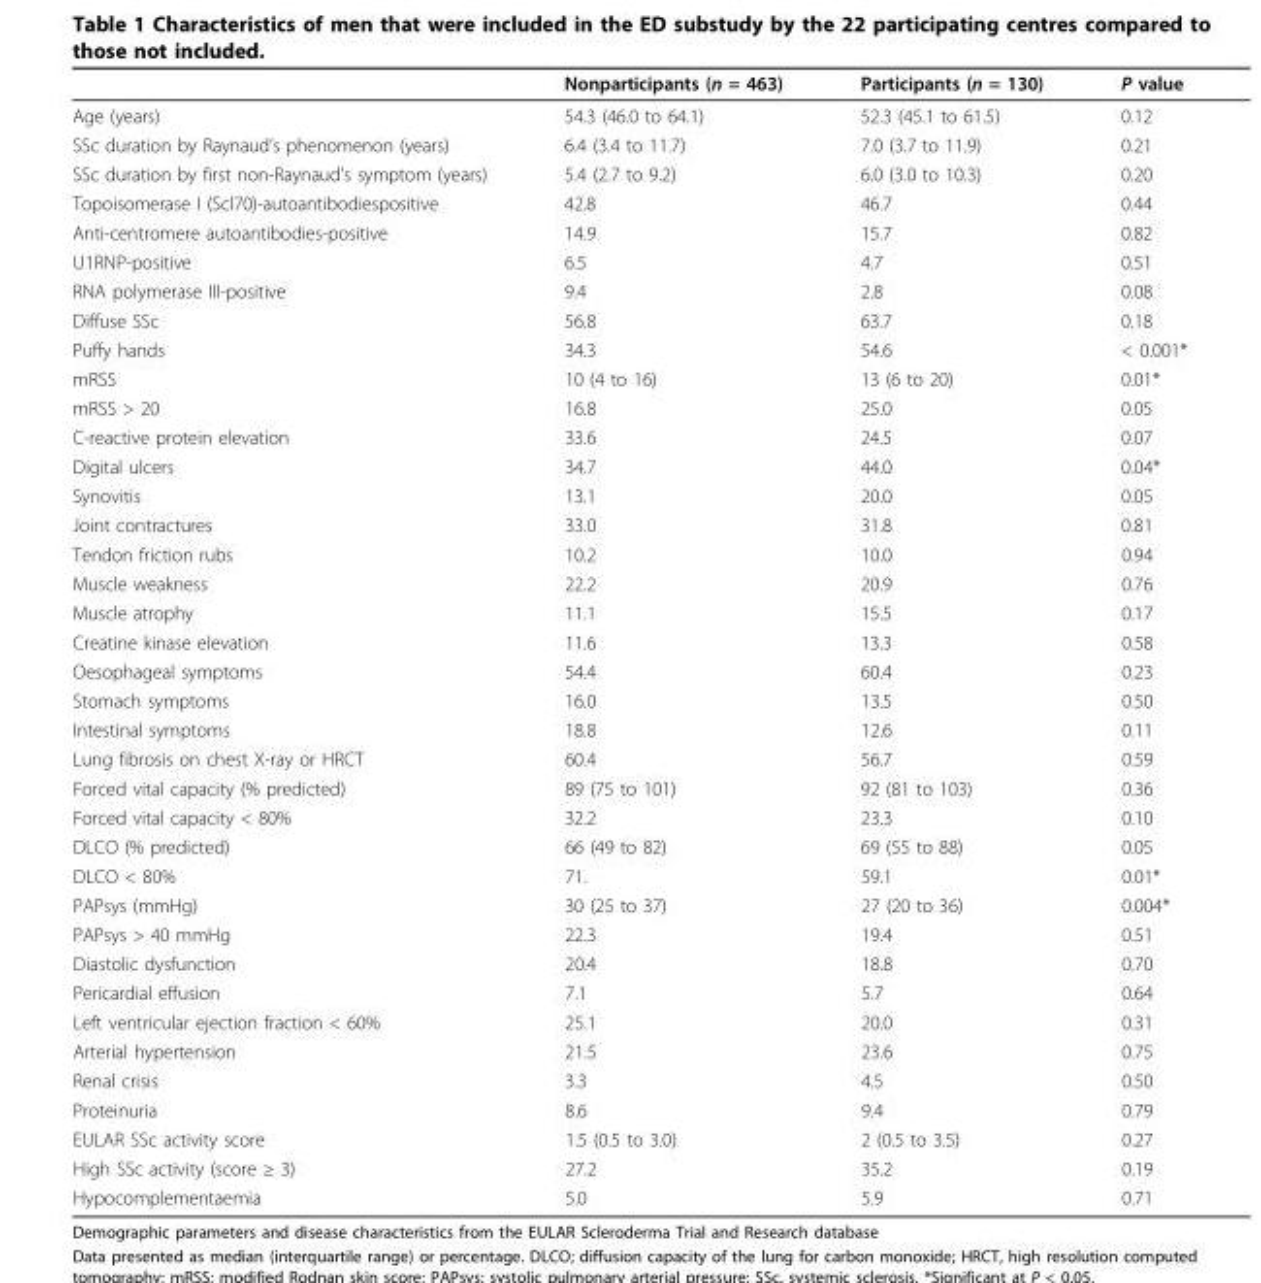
<table><thead><tr><td></td><td>Nonparticipants (n = 463)</td><td>Participants (n = 130)</td><td>P value</td></tr></thead><tbody><tr><td>Age (years)</td><td>54.3 (46.0 to 64.1)</td><td>52.3 (45.1 to 61.5)</td><td>0.12</td></tr><tr><td>SSc duration by Raynaud’s phenomenon (years)</td><td>6.4 (3.4 to 11.7)</td><td>7.0 (3.7 to 11.9)</td><td>0.21</td></tr><tr><td>SSc duration by first non-Raynaud’s symptom (years)</td><td>5.4 (2.7 to 9.2)</td><td>6.0 (3.0 to 10.3)</td><td>0.20</td></tr><tr><td>Topoisomerase I (Scl70)-autoantibodiespositive</td><td>42.8</td><td>46.7</td><td>0.44</td></tr><tr><td>Anti-centromere autoantibodies-positive</td><td>14.9</td><td>15.7</td><td>0.82</td></tr><tr><td>U1RNP-positive</td><td>6.5</td><td>4.7</td><td>0.51</td></tr><tr><td>RNA polymerase III-positive</td><td>9.4</td><td>2.8</td><td>0.08</td></tr><tr><td>Diffuse SSc</td><td>56.8</td><td>63.7</td><td>0.18</td></tr><tr><td>Puffy hands</td><td>34.3</td><td>54.6</td><td>&lt; 0.001*</td></tr><tr><td>mRSS</td><td>10 (4 to 16)</td><td>13 (6 to 20)</td><td>0.01*</td></tr><tr><td>mRSS &gt; 20</td><td>16.8</td><td>25.0</td><td>0.05</td></tr><tr><td>C-reactive protein elevation</td><td>33.6</td><td>24.5</td><td>0.07</td></tr><tr><td>Digital ulcers</td><td>34.7</td><td>44.0</td><td>0.04*</td></tr><tr><td>Synovitis</td><td>13.1</td><td>20.0</td><td>0.05</td></tr><tr><td>Joint contractures</td><td>33.0</td><td>31.8</td><td>0.81</td></tr><tr><td>Tendon friction rubs</td><td>10.2</td><td>10.0</td><td>0.94</td></tr><tr><td>Muscle weakness</td><td>22.2</td><td>20.9</td><td>0.76</td></tr><tr><td>Muscle atrophy</td><td>11.1</td><td>15.5</td><td>0.17</td></tr><tr><td>Creatine kinase elevation</td><td>11.6</td><td>13.3</td><td>0.58</td></tr><tr><td>Oesophageal symptoms</td><td>54.4</td><td>60.4</td><td>0.23</td></tr><tr><td>Stomach symptoms</td><td>16.0</td><td>13.5</td><td>0.50</td></tr><tr><td>Intestinal symptoms</td><td>18.8</td><td>12.6</td><td>0.11</td></tr><tr><td>Lung fibrosis on chest X-ray or HRCT</td><td>60.4</td><td>56.7</td><td>0.59</td></tr><tr><td>Forced vital capacity (% predicted)</td><td>89 (75 to 101)</td><td>92 (81 to 103)</td><td>0.36</td></tr><tr><td>Forced vital capacity &lt; 80%</td><td>32.2</td><td>23.3</td><td>0.10</td></tr><tr><td>DLCO (% predicted)</td><td>66 (49 to 82)</td><td>69 (55 to 88)</td><td>0.05</td></tr><tr><td>DLCO &lt; 80%</td><td>71.</td><td>59.1</td><td>0.01*</td></tr><tr><td>PAPsys (mmHg)</td><td>30 (25 to 37)</td><td>27 (20 to 36)</td><td>0.004*</td></tr><tr><td>PAPsys &gt; 40 mmHg</td><td>22.3</td><td>19.4</td><td>0.51</td></tr><tr><td>Diastolic dysfunction</td><td>20.4</td><td>18.8</td><td>0.70</td></tr><tr><td>Pericardial effusion</td><td>7.1</td><td>5.7</td><td>0.64</td></tr><tr><td>Left ventricular ejection fraction &lt; 60%</td><td>25.1</td><td>20.0</td><td>0.31</td></tr><tr><td>Arterial hypertension</td><td>21.5</td><td>23.6</td><td>0.75</td></tr><tr><td>Renal crisis</td><td>3.3</td><td>4.5</td><td>0.50</td></tr><tr><td>Proteinuria</td><td>8.6</td><td>9.4</td><td>0.79</td></tr><tr><td>EULAR SSc activity score</td><td>1.5 (0.5 to 3.0)</td><td>2 (0.5 to 3.5)</td><td>0.27</td></tr><tr><td>High SSc activity (score ≥ 3)</td><td>27.2</td><td>35.2</td><td>0.19</td></tr><tr><td>Hypocomplementaemia</td><td>5.0</td><td>5.9</td><td>0.71</td></tr></tbody></table>